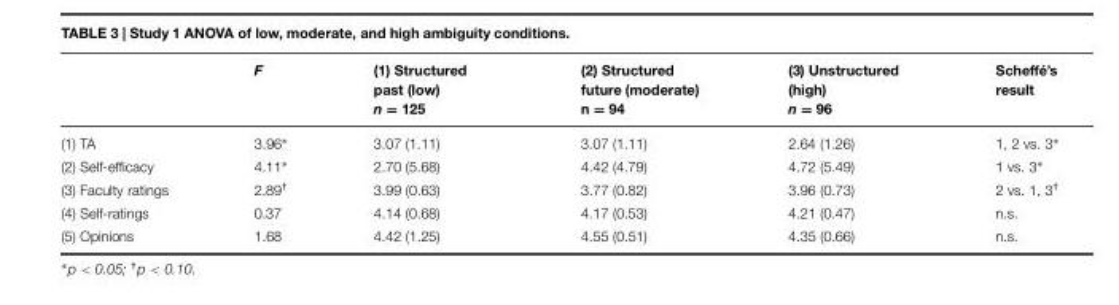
<table><thead><tr><td></td><td>F</td><td>(1) Structured past (low) n = 125</td><td>(2) Structured future (moderate) n = 94</td><td>(3) Unstructured (high) n = 96</td><td>Scheffé’s result</td></tr></thead><tbody><tr><td>(1) TA</td><td>3.96∗</td><td>3.07 (1.11)</td><td>3.07 (1.11)</td><td>2.64 (1.26)</td><td>1, 2 vs. 3∗</td></tr><tr><td>(2) Self-efficacy</td><td>4.11∗</td><td>2.70 (5.68)</td><td>4.42 (4.79)</td><td>4.72 (5.49)</td><td>1 vs. 3∗</td></tr><tr><td>(3) Faculty ratings</td><td>2.89<sup>†</sup></td><td>3.99 (0.63)</td><td>3.77 (0.82)</td><td>3.96 (0.73)</td><td>2 vs. 1, 3<sup>†</sup></td></tr><tr><td>(4) Self-ratings</td><td>0.37</td><td>4.14 (0.68)</td><td>4.17 (0.53)</td><td>4.21 (0.47)</td><td>n.s.</td></tr><tr><td>(5) Opinions</td><td>1.68</td><td>4.42 (1.25)</td><td>4.55 (0.51)</td><td>4.35 (0.66)</td><td>n.s.</td></tr></tbody></table>